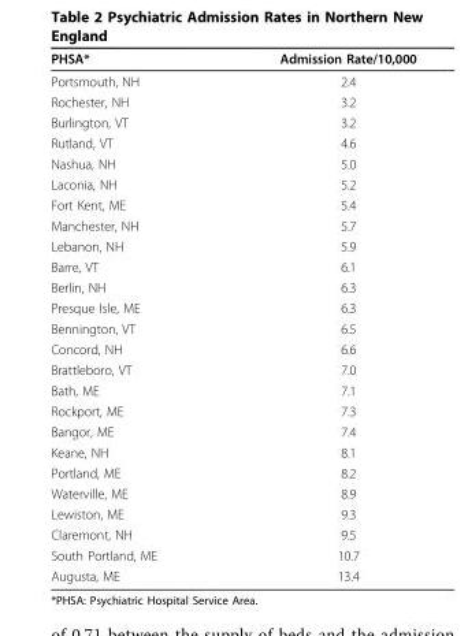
<table><thead><tr><td>PHSA*</td><td>Admission Rate/10,000</td></tr></thead><tbody><tr><td>Portsmouth, NH</td><td>2.4</td></tr><tr><td>Rochester, NH</td><td>3.2</td></tr><tr><td>Burlington, VT</td><td>3.2</td></tr><tr><td>Rutland, VT</td><td>4.6</td></tr><tr><td>Nashua, NH</td><td>5.0</td></tr><tr><td>Laconia, NH</td><td>5.2</td></tr><tr><td>Fort Kent, ME</td><td>5.4</td></tr><tr><td>Manchester, NH</td><td>5.7</td></tr><tr><td>Lebanon, NH</td><td>5.9</td></tr><tr><td>Barre, VT</td><td>6.1</td></tr><tr><td>Berlin, NH</td><td>6.3</td></tr><tr><td>Presque Isle, ME</td><td>6.3</td></tr><tr><td>Bennington, VT</td><td>6.5</td></tr><tr><td>Concord, NH</td><td>6.6</td></tr><tr><td>Brattleboro, VT</td><td>7.0</td></tr><tr><td>Bath, ME</td><td>7.1</td></tr><tr><td>Rockport, ME</td><td>7.3</td></tr><tr><td>Bangor, ME</td><td>7.4</td></tr><tr><td>Keane, NH</td><td>8.1</td></tr><tr><td>Portland, ME</td><td>8.2</td></tr><tr><td>Waterville, ME</td><td>8.9</td></tr><tr><td>Lewiston, ME</td><td>9.3</td></tr><tr><td>Claremont, NH</td><td>9.5</td></tr><tr><td>South Portland, ME</td><td>10.7</td></tr><tr><td>Augusta, ME</td><td>13.4</td></tr></tbody></table>